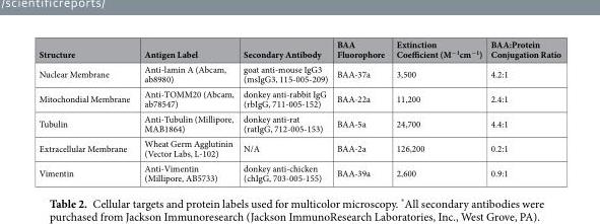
<table><thead><tr><td>Structure</td><td>Antigen Label</td><td>Secondary Antibody</td><td>BAA Fluorophore</td><td>Extinction Coefficient (M<sup>−1</sup>cm<sup>−1</sup>)</td><td>BAA:Protein Conjugation Ratio</td></tr></thead><tbody><tr><td>Nuclear Membrane</td><td>Anti-lamin A (Abcam, ab8980)</td><td>goat anti-mouse IgG3 (msIgG3, 115-005-209)</td><td>BAA-37a</td><td>3,500</td><td>4.2:1</td></tr><tr><td>Mitochondial Membrane</td><td>Anti-TOMM20 (Abcam, ab78547)</td><td>donkey anti-rabbit IgG (rbIgG, 711-005-152)</td><td>BAA-22a</td><td>11,200</td><td>2.4:1</td></tr><tr><td>Tubulin</td><td>Anti-Tubulin (Millipore, MAB1864)</td><td>donkey anti-rat (ratIgG, 712-005-153)</td><td>BAA-5a</td><td>24,700</td><td>4.4:1</td></tr><tr><td>Extracellular Membrane</td><td>Wheat Germ Agglutinin (Vector Labs, L-102)</td><td>N/A</td><td>BAA-2a</td><td>126,200</td><td>0.2:1</td></tr><tr><td>Vimentin</td><td>Anti-Vimentin (Millipore, AB5733)</td><td>donkey anti-chicken (chIgG, 703-005-155)</td><td>BAA-39a</td><td>2,600</td><td>0.9:1</td></tr></tbody></table>